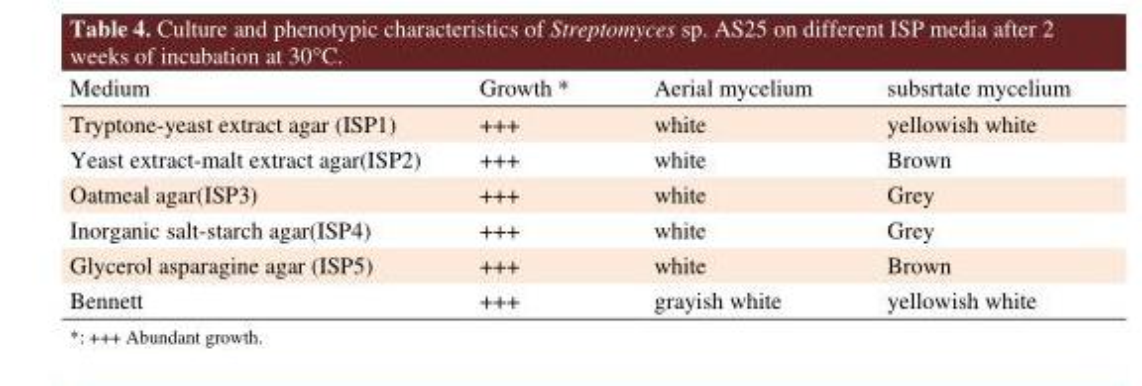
<table><thead><tr><td>Medium</td><td>Growth *</td><td>Aerial mycelium</td><td>subsrtate mycelium</td></tr></thead><tbody><tr><td>Tryptone-yeast extract agar (ISP1)</td><td>+++</td><td>white</td><td>yellowish white</td></tr><tr><td>Yeast extract-malt extract agar(ISP2)</td><td>+++</td><td>white</td><td>Brown</td></tr><tr><td>Oatmeal agar(ISP3)</td><td>+++</td><td>white</td><td>Grey</td></tr><tr><td>Inorganic salt-starch agar(ISP4)</td><td>+++</td><td>white</td><td>Grey</td></tr><tr><td>Glycerol asparagine agar (ISP5)</td><td>+++</td><td>white</td><td>Brown</td></tr><tr><td>Bennett</td><td>+++</td><td>grayish white</td><td>yellowish white</td></tr></tbody></table>